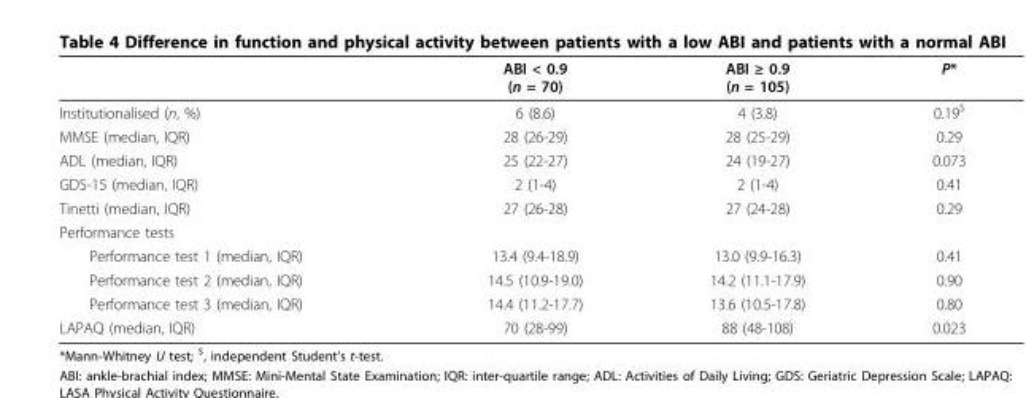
<table><thead><tr><td></td><td>ABI &lt; 0.9 (n = 70)</td><td>ABI ≥ 0.9 (n = 105)</td><td>P*</td></tr></thead><tbody><tr><td>Institutionalised (n, %)</td><td>6 (8.6)</td><td>4 (3.8)</td><td>0.19<sup>$</sup></td></tr><tr><td>MMSE (median, IQR)</td><td>28 (26-29)</td><td>28 (25-29)</td><td>0.29</td></tr><tr><td>ADL (median, IQR)</td><td>25 (22-27)</td><td>24 (19-27)</td><td>0.073</td></tr><tr><td>GDS-15 (median, IQR)</td><td>2 (1-4)</td><td>2 (1-4)</td><td>0.41</td></tr><tr><td>Tinetti (median, IQR)</td><td>27 (26-28)</td><td>27 (24-28)</td><td>0.29</td></tr><tr><td colspan="4">Performance tests</td></tr><tr><td>Performance test 1 (median, IQR)</td><td>13.4 (9.4-18.9)</td><td>13.0 (9.9-16.3)</td><td>0.41</td></tr><tr><td>Performance test 2 (median, IQR)</td><td>14.5 (10.9-19.0)</td><td>14.2 (11.1-17.9)</td><td>0.90</td></tr><tr><td>Performance test 3 (median, IQR)</td><td>14.4 (11.2-17.7)</td><td>13.6 (10.5-17.8)</td><td>0.80</td></tr><tr><td>LAPAQ (median, IQR)</td><td>70 (28-99)</td><td>88 (48-108)</td><td>0.023</td></tr></tbody></table>